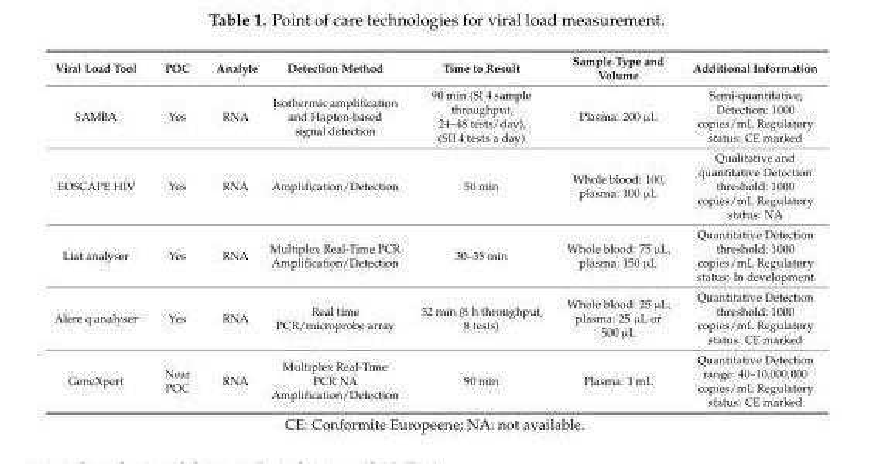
<table><thead><tr><td>Viral Load Tool</td><td>POC</td><td>Analyte</td><td>Detection Method</td><td>Time to Result</td><td>Sample Type and Volume</td><td>Additional Information</td></tr></thead><tbody><tr><td>SAMBA</td><td>Yes</td><td>RNA</td><td>Isothermic amplification and Hapten-based signal detection</td><td>90 min (SI 4 sample throughput, 24–48 tests/day), (SII 4 tests a day)</td><td>Plasma: 200 µL</td><td>Semi-quantitative; Detection: 1000 copies/mL Regulatory status: CE marked</td></tr><tr><td>EOSCAPE HIV</td><td>Yes</td><td>RNA</td><td>Amplification/Detection</td><td>50 min</td><td>Whole blood: 100, plasma: 100 µL</td><td>Qualitative and quantitative Detection threshold: 1000 copies/mL Regulatory status: NA</td></tr><tr><td>Liat analyser</td><td>Yes</td><td>RNA</td><td>Multiplex Real-Time PCR Amplification/Detection</td><td>30–35 min</td><td>Whole blood: 75 µL, plasma: 150 µL</td><td>Quantitative Detection threshold: 1000 copies/mL Regulatory status: In development</td></tr><tr><td>Alere q analyser</td><td>Yes</td><td>RNA</td><td>Real time PCR/microprobe array</td><td>52 min (8 h throughput, 8 tests)</td><td>Whole blood: 25 µL; plasma: 25 µL or 500 µL</td><td>Quantitative Detection threshold: 1000 copies/mL Regulatory status: CE marked</td></tr><tr><td>GeneXpert</td><td>Near POC</td><td>RNA</td><td>Multiplex Real-Time PCR NA Amplification/Detection</td><td>90 min</td><td>Plasma: 1 mL</td><td>Quantitative Detection range: 40–10,000,000 copies/mL Regulatory status: CE marked</td></tr></tbody></table>